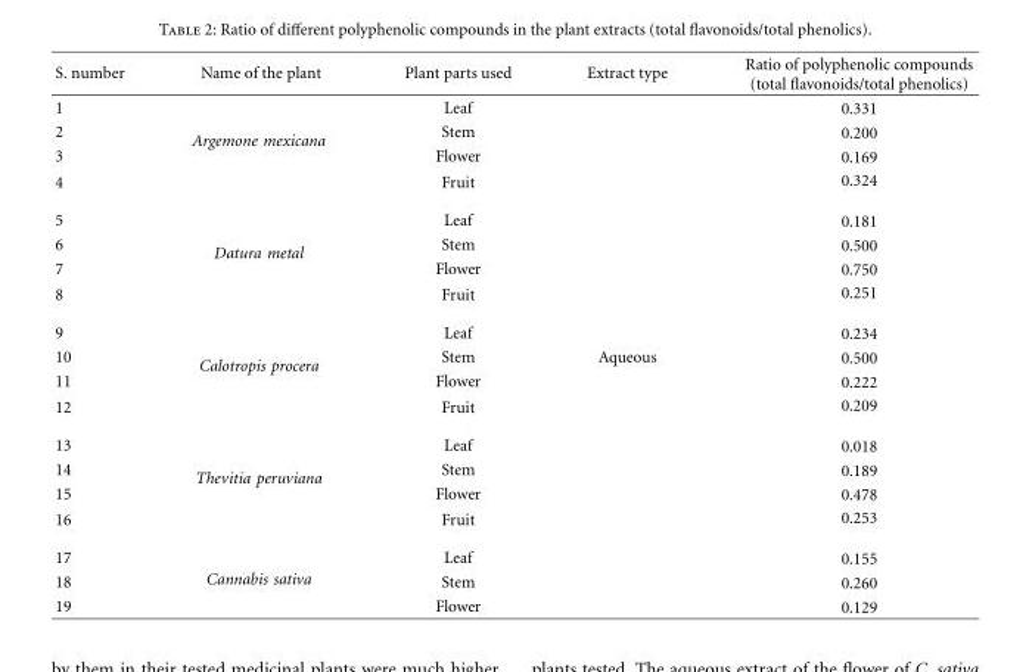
<table><thead><tr><td>S. number</td><td>Name of the plant</td><td>Plant parts used</td><td>Extract type</td><td>Ratio of polyphenolic compounds (total flavonoids/total phenolics)</td></tr></thead><tbody><tr><td>1</td><td rowspan="4">Argemone mexicana</td><td>Leaf</td><td></td><td>0.331</td></tr><tr><td>2</td><td>Stem</td><td></td><td>0.200</td></tr><tr><td>3</td><td>Flower</td><td></td><td>0.169</td></tr><tr><td>4</td><td>Fruit</td><td></td><td>0.324</td></tr><tr><td>5</td><td rowspan="4">Datura metal</td><td>Leaf</td><td></td><td>0.181</td></tr><tr><td>6</td><td>Stem</td><td></td><td>0.500</td></tr><tr><td>7</td><td>Flower</td><td></td><td>0.750</td></tr><tr><td>8</td><td>Fruit</td><td></td><td>0.251</td></tr><tr><td>9</td><td rowspan="4">Calotropis procera</td><td>Leaf</td><td></td><td>0.234</td></tr><tr><td>10</td><td>Stem</td><td>Aqueous</td><td>0.500</td></tr><tr><td>11</td><td>Flower</td><td></td><td>0.222</td></tr><tr><td>12</td><td>Fruit</td><td></td><td>0.209</td></tr><tr><td>13</td><td rowspan="4">Thevitia peruviana</td><td>Leaf</td><td></td><td>0.018</td></tr><tr><td>14</td><td>Stem</td><td></td><td>0.189</td></tr><tr><td>15</td><td>Flower</td><td></td><td>0.478</td></tr><tr><td>16</td><td>Fruit</td><td></td><td>0.253</td></tr><tr><td>17</td><td rowspan="3">Cannabis sativa</td><td>Leaf</td><td></td><td>0.155</td></tr><tr><td>18</td><td>Stem</td><td></td><td>0.260</td></tr><tr><td>19</td><td>Flower</td><td></td><td>0.129</td></tr></tbody></table>